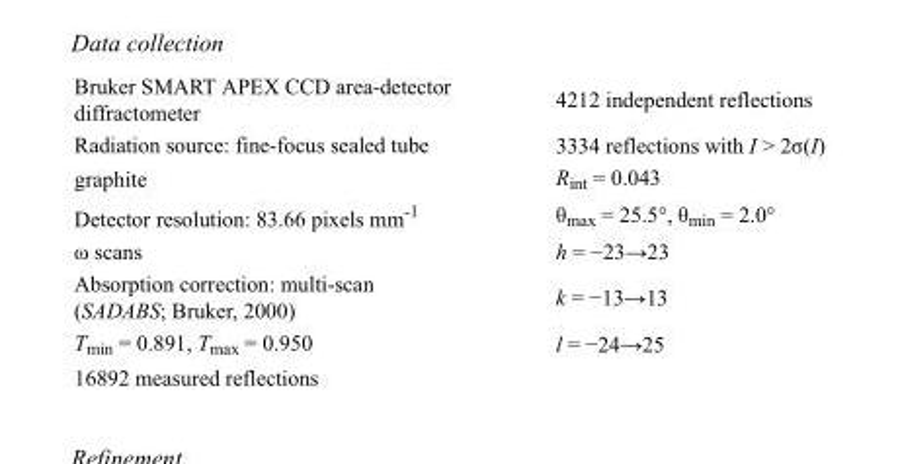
<table><tbody><tr><td>Bruker SMART APEX CCD area-detector diffractometer</td><td>4212 independent reflections</td></tr><tr><td>Radiation source: fine-focus sealed tube</td><td>3334 reflections with I &gt; 2σ(I)</td></tr><tr><td>graphite</td><td>R<sub>int</sub> = 0.043</td></tr><tr><td>Detector resolution: 83.66 pixels mm<sup>-1</sup></td><td>θ<sub>max</sub> = 25.5°, θ<sub>min</sub> = 2.0°</td></tr><tr><td>ω scans</td><td>h = −23→23</td></tr><tr><td>Absorption correction: multi-scan (SADABS; Bruker, 2000)</td><td>k = −13→13</td></tr><tr><td>T<sub>min</sub> = 0.891, T<sub>max</sub> = 0.950</td><td>l = −24→25</td></tr><tr><td>16892 measured reflections</td><td></td></tr></tbody></table>